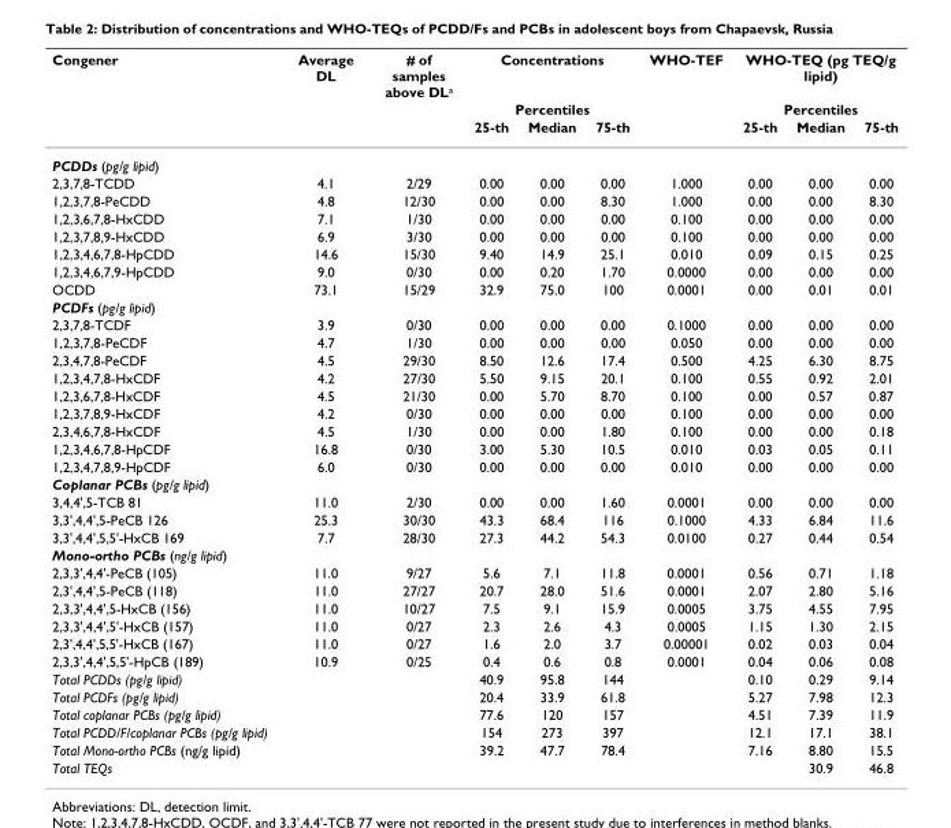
<table><thead><tr><td rowspan="3">Congener</td><td rowspan="3">Average DL</td><td rowspan="3"># of samples above DL<sup>a</sup></td><td rowspan="2" colspan="3">Concentrations Percentiles</td><td rowspan="3">WHO-TEF</td><td rowspan="2" colspan="3">WHO-TEQ (pg TEQ/g lipid) Percentiles</td></tr><tr></tr><tr><td>25-th</td><td>Median</td><td>75-th</td><td>25-th</td><td>Median</td><td>75-th</td></tr></thead><tbody><tr><td colspan="10">PCDDs (pg/g lipid)</td></tr><tr><td>2,3,7,8-TCDD</td><td>4.1</td><td>2/29</td><td>0.00</td><td>0.00</td><td>0.00</td><td>1.000</td><td>0.00</td><td>0.00</td><td>0.00</td></tr><tr><td>1,2,3,7,8-PeCDD</td><td>4.8</td><td>12/30</td><td>0.00</td><td>0.00</td><td>8.30</td><td>1.000</td><td>0.00</td><td>0.00</td><td>8.30</td></tr><tr><td>1,2,3,6,7,8-HxCDD</td><td>7.1</td><td>1/30</td><td>0.00</td><td>0.00</td><td>0.00</td><td>0.100</td><td>0.00</td><td>0.00</td><td>0.00</td></tr><tr><td>1,2,3,7,8,9-HxCDD</td><td>6.9</td><td>3/30</td><td>0.00</td><td>0.00</td><td>0.00</td><td>0.100</td><td>0.00</td><td>0.00</td><td>0.00</td></tr><tr><td>1,2,3,4,6,7,8-HpCDD</td><td>14.6</td><td>15/30</td><td>9.40</td><td>14.9</td><td>25.1</td><td>0.010</td><td>0.09</td><td>0.15</td><td>0.25</td></tr><tr><td>1,2,3,4,6,7,9-HpCDD</td><td>9.0</td><td>0/30</td><td>0.00</td><td>0.20</td><td>1.70</td><td>0.0000</td><td>0.00</td><td>0.00</td><td>0.00</td></tr><tr><td>OCDD</td><td>73.1</td><td>15/29</td><td>32.9</td><td>75.0</td><td>100</td><td>0.0001</td><td>0.00</td><td>0.01</td><td>0.01</td></tr><tr><td colspan="10">PCDFs (pg/g lipid)</td></tr><tr><td>2,3,7,8-TCDF</td><td>3.9</td><td>0/30</td><td>0.00</td><td>0.00</td><td>0.00</td><td>0.1000</td><td>0.00</td><td>0.00</td><td>0.00</td></tr><tr><td>1,2,3,7,8-PeCDF</td><td>4.7</td><td>1/30</td><td>0.00</td><td>0.00</td><td>0.00</td><td>0.050</td><td>0.00</td><td>0.00</td><td>0.00</td></tr><tr><td>2,3,4,7,8-PeCDF</td><td>4.5</td><td>29/30</td><td>8.50</td><td>12.6</td><td>17.4</td><td>0.500</td><td>4.25</td><td>6.30</td><td>8.75</td></tr><tr><td>1,2,3,4,7,8-HxCDF</td><td>4.2</td><td>27/30</td><td>5.50</td><td>9.15</td><td>20.1</td><td>0.100</td><td>0.55</td><td>0.92</td><td>2.01</td></tr><tr><td>1,2,3,6,7,8-HxCDF</td><td>4.5</td><td>21/30</td><td>0.00</td><td>5.70</td><td>8.70</td><td>0.100</td><td>0.00</td><td>0.57</td><td>0.87</td></tr><tr><td>1,2,3,7,8,9-HxCDF</td><td>4.2</td><td>0/30</td><td>0.00</td><td>0.00</td><td>0.00</td><td>0.100</td><td>0.00</td><td>0.00</td><td>0.00</td></tr><tr><td>2,3,4,6,7,8-HxCDF</td><td>4.5</td><td>1/30</td><td>0.00</td><td>0.00</td><td>1.80</td><td>0.100</td><td>0.00</td><td>0.00</td><td>0.18</td></tr><tr><td>1,2,3,4,6,7,8-HpCDF</td><td>16.8</td><td>0/30</td><td>3.00</td><td>5.30</td><td>10.5</td><td>0.010</td><td>0.03</td><td>0.05</td><td>0.11</td></tr><tr><td>1,2,3,4,7,8,9-HpCDF</td><td>6.0</td><td>0/30</td><td>0.00</td><td>0.00</td><td>0.00</td><td>0.010</td><td>0.00</td><td>0.00</td><td>0.00</td></tr><tr><td colspan="10">Coplanar PCBs (pg/g lipid)</td></tr><tr><td>3,4,4&#x27;,5-TCB 81</td><td>11.0</td><td>2/30</td><td>0.00</td><td>0.00</td><td>1.60</td><td>0.0001</td><td>0.00</td><td>0.00</td><td>0.00</td></tr><tr><td>3,3&#x27;,4,4&#x27;,5-PeCB 126</td><td>25.3</td><td>30/30</td><td>43.3</td><td>68.4</td><td>116</td><td>0.1000</td><td>4.33</td><td>6.84</td><td>11.6</td></tr><tr><td>3,3&#x27;,4,4&#x27;,5,5&#x27;-HxCB 169</td><td>7.7</td><td>28/30</td><td>27.3</td><td>44.2</td><td>54.3</td><td>0.0100</td><td>0.27</td><td>0.44</td><td>0.54</td></tr><tr><td colspan="10">Mono-ortho PCBs (ng/g lipid)</td></tr><tr><td>2,3,3&#x27;,4,4&#x27;-PeCB (105)</td><td>11.0</td><td>9/27</td><td>5.6</td><td>7.1</td><td>11.8</td><td>0.0001</td><td>0.56</td><td>0.71</td><td>1.18</td></tr><tr><td>2,3&#x27;,4,4&#x27;,5-PeCB (118)</td><td>11.0</td><td>27/27</td><td>20.7</td><td>28.0</td><td>51.6</td><td>0.0001</td><td>2.07</td><td>2.80</td><td>5.16</td></tr><tr><td>2,3,3&#x27;,4,4&#x27;,5-HxCB (156)</td><td>11.0</td><td>10/27</td><td>7.5</td><td>9.1</td><td>15.9</td><td>0.0005</td><td>3.75</td><td>4.55</td><td>7.95</td></tr><tr><td>2,3,3&#x27;,4,4&#x27;,5&#x27;-HxCB (157)</td><td>11.0</td><td>0/27</td><td>2.3</td><td>2.6</td><td>4.3</td><td>0.0005</td><td>1.15</td><td>1.30</td><td>2.15</td></tr><tr><td>2,3&#x27;,4,4&#x27;,5,5&#x27;-HxCB (167)</td><td>11.0</td><td>0/27</td><td>1.6</td><td>2.0</td><td>3.7</td><td>0.00001</td><td>0.02</td><td>0.03</td><td>0.04</td></tr><tr><td>2,3,3&#x27;,4,4&#x27;,5,5&#x27;-HpCB (189)</td><td>10.9</td><td>0/25</td><td>0.4</td><td>0.6</td><td>0.8</td><td>0.0001</td><td>0.04</td><td>0.06</td><td>0.08</td></tr><tr><td>Total PCDDs (pg/g lipid)</td><td></td><td></td><td>40.9</td><td>95.8</td><td>144</td><td></td><td>0.10</td><td>0.29</td><td>9.14</td></tr><tr><td>Total PCDFs (pg/g lipid)</td><td></td><td></td><td>20.4</td><td>33.9</td><td>61.8</td><td></td><td>5.27</td><td>7.98</td><td>12.3</td></tr><tr><td>Total coplanar PCBs (pg/g lipid)</td><td></td><td></td><td>77.6</td><td>120</td><td>157</td><td></td><td>4.51</td><td>7.39</td><td>11.9</td></tr><tr><td>Total PCDD/F/coplanar PCBs (pg/g lipid)</td><td></td><td></td><td>154</td><td>273</td><td>397</td><td></td><td>12.1</td><td>17.1</td><td>38.1</td></tr><tr><td>Total Mono-ortho PCBs (ng/g lipid)</td><td></td><td></td><td>39.2</td><td>47.7</td><td>78.4</td><td></td><td>7.16</td><td>8.80</td><td>15.5</td></tr><tr><td>Total TEQs</td><td></td><td></td><td></td><td></td><td></td><td></td><td></td><td>30.9</td><td>46.8</td></tr></tbody></table>